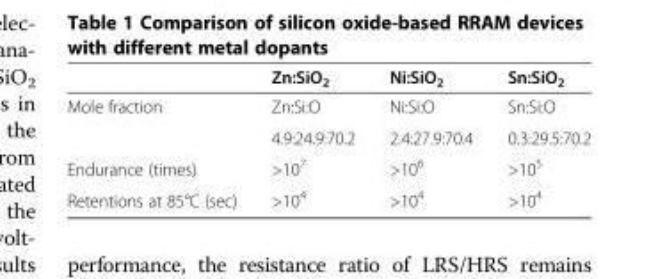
<table><thead><tr><td></td><td>Zn:SiO<sub>2</sub></td><td>Ni:SiO<sub>2</sub></td><td>Sn:SiO<sub>2</sub></td></tr></thead><tbody><tr><td rowspan="2">Mole fraction</td><td>Zn:Si:O</td><td>Ni:Si:O</td><td>Sn:Si:O</td></tr><tr><td>4.9:24.9:70.2</td><td>2.4:27.9:70.4</td><td>0.3:29.5:70.2</td></tr><tr><td>Endurance (times)</td><td>&gt;10<sup>7</sup></td><td>&gt;10<sup>6</sup></td><td>&gt;10<sup>5</sup></td></tr><tr><td>Retentions at 85°C (sec)</td><td>&gt;10<sup>4</sup></td><td>&gt;10<sup>4</sup></td><td>&gt;10<sup>4</sup></td></tr></tbody></table>